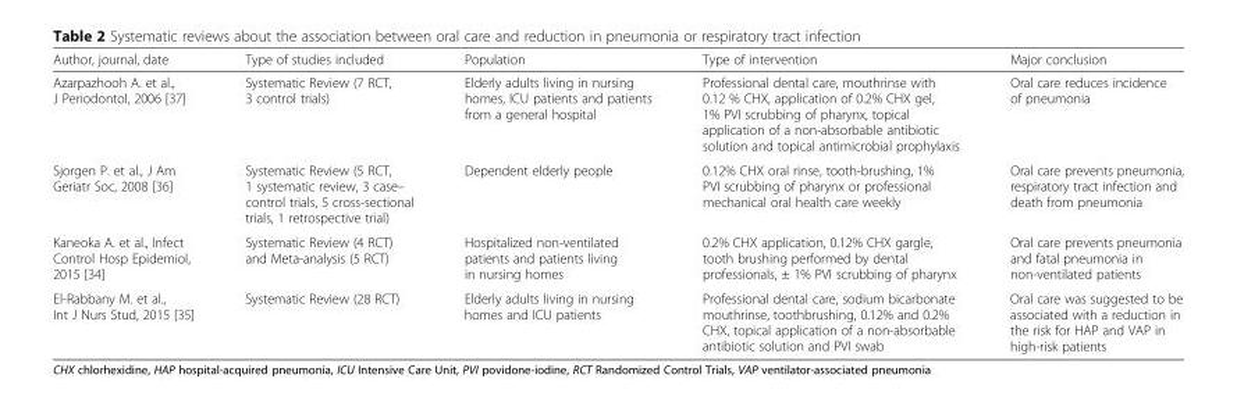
<table><thead><tr><td>Author, journal, date</td><td>Type of studies included</td><td>Population</td><td>Type of intervention</td><td>Major conclusion</td></tr></thead><tbody><tr><td>Azarpazhooh A. et al., J Periodontol, 2006 [37]</td><td>Systematic Review (7 RCT, 3 control trials)</td><td>Elderly adults living in nursing homes, ICU patients and patients from a general hospital</td><td>Professional dental care, mouthrinse with 0.12 % CHX, application of 0.2% CHX gel, 1% PVI scrubbing of pharynx, topical application of a non-absorbable antibiotic solution and topical antimicrobial prophylaxis</td><td>Oral care reduces incidence of pneumonia</td></tr><tr><td>Sjorgen P. et al., J Am Geriatr Soc, 2008 [36]</td><td>Systematic Review (5 RCT, 1 systematic review, 3 case– control trials, 5 cross-sectional trials, 1 retrospective trial)</td><td>Dependent elderly people</td><td>0.12% CHX oral rinse, tooth-brushing, 1% PVI scrubbing of pharynx or professional mechanical oral health care weekly</td><td>Oral care prevents pneumonia, respiratory tract infection and death from pneumonia</td></tr><tr><td>Kaneoka A. et al., Infect Control Hosp Epidemiol, 2015 [34]</td><td>Systematic Review (4 RCT) and Meta-analysis (5 RCT)</td><td>Hospitalized non-ventilated patients and patients living in nursing homes</td><td>0.2% CHX application, 0.12% CHX gargle, tooth brushing performed by dental professionals, ± 1% PVI scrubbing of pharynx</td><td>Oral care prevents pneumonia and fatal pneumonia in non-ventilated patients</td></tr><tr><td>El-Rabbany M. et al., Int J Nurs Stud, 2015 [35]</td><td>Systematic Review (28 RCT)</td><td>Elderly adults living in nursing homes and ICU patients</td><td>Professional dental care, sodium bicarbonate mouthrinse, toothbrushing, 0.12% and 0.2% CHX, topical application of a non-absorbable antibiotic solution and PVI swab</td><td>Oral care was suggested to be associated with a reduction in the risk for HAP and VAP in high-risk patients</td></tr></tbody></table>